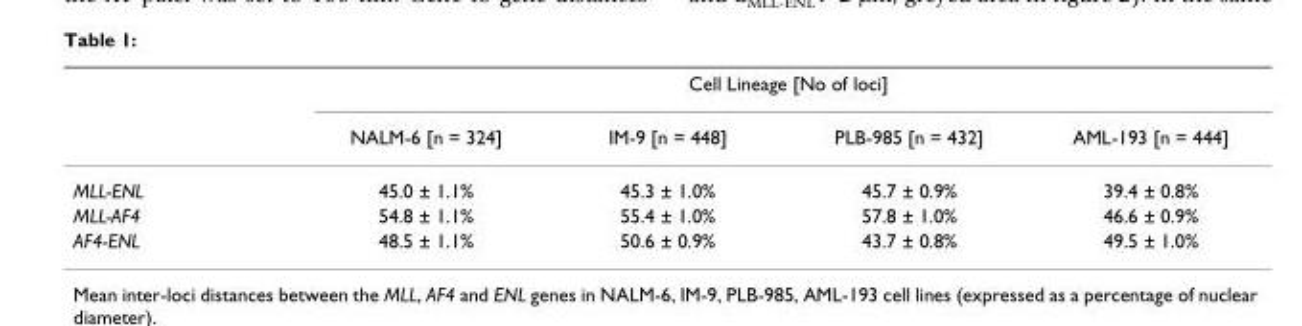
<table><thead><tr><td rowspan="2"></td><td colspan="4">Cell Lineage [No of loci]</td></tr><tr><td>NALM-6 [n = 324]</td><td>IM-9 [n = 448]</td><td>PLB-985 [n = 432]</td><td>AML-193 [n = 444]</td></tr></thead><tbody><tr><td>MLL-ENL</td><td>45.0 ± 1.1%</td><td>45.3 ± 1.0%</td><td>45.7 ± 0.9%</td><td>39.4 ± 0.8%</td></tr><tr><td>MLL-AF4</td><td>54.8 ± 1.1%</td><td>55.4 ± 1.0%</td><td>57.8 ± 1.0%</td><td>46.6 ± 0.9%</td></tr><tr><td>AF4-ENL</td><td>48.5 ± 1.1%</td><td>50.6 ± 0.9%</td><td>43.7 ± 0.8%</td><td>49.5 ± 1.0%</td></tr></tbody></table>